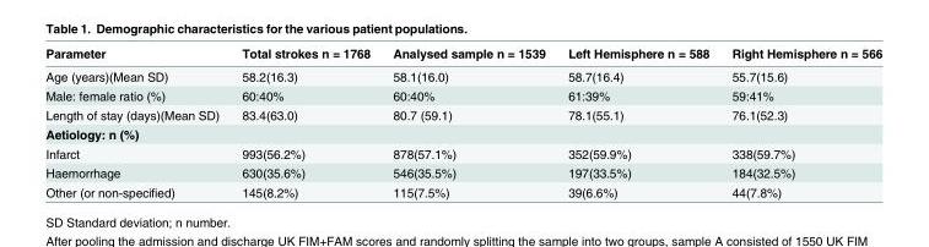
<table><thead><tr><td>Parameter</td><td>Total strokes n = 1768</td><td>Analysed sample n = 1539</td><td>Left Hemisphere n = 588</td><td>Right Hemisphere n = 566</td></tr></thead><tbody><tr><td>Age (years)(Mean SD)</td><td>58.2(16.3)</td><td>58.1(16.0)</td><td>58.7(16.4)</td><td>55.7(15.6)</td></tr><tr><td>Male: female ratio (%)</td><td>60:40%</td><td>60:40%</td><td>61:39%</td><td>59:41%</td></tr><tr><td>Length of stay (days)(Mean SD)</td><td>83.4(63.0)</td><td>80.7 (59.1)</td><td>78.1(55.1)</td><td>76.1(52.3)</td></tr><tr><td colspan="5">Aetiology: n (%)</td></tr><tr><td>Infarct</td><td>993(56.2%)</td><td>878(57.1%)</td><td>352(59.9%)</td><td>338(59.7%)</td></tr><tr><td>Haemorrhage</td><td>630(35.6%)</td><td>546(35.5%)</td><td>197(33.5%)</td><td>184(32.5%)</td></tr><tr><td>Other (or non-specified)</td><td>145(8.2%)</td><td>115(7.5%)</td><td>39(6.6%)</td><td>44(7.8%)</td></tr></tbody></table>